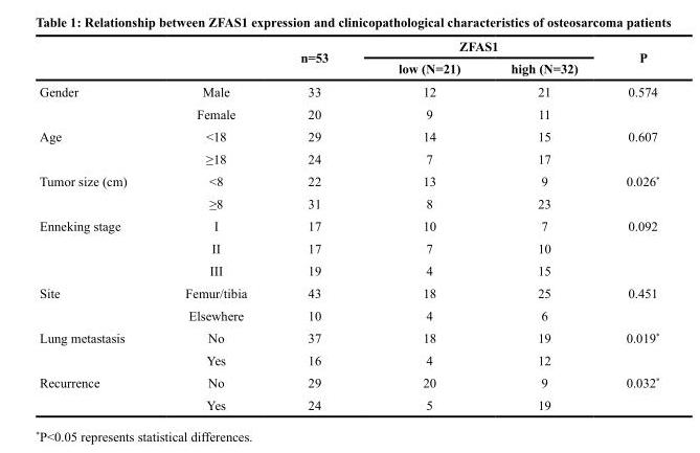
<table><thead><tr><td rowspan="2"></td><td rowspan="2"></td><td rowspan="2">n=53</td><td colspan="2">ZFAS1</td><td rowspan="2">P</td></tr><tr><td>low (N=21)</td><td>high (N=32)</td></tr></thead><tbody><tr><td rowspan="2">Gender</td><td>Male</td><td>33</td><td>12</td><td>21</td><td>0.574</td></tr><tr><td>Female</td><td>20</td><td>9</td><td>11</td><td></td></tr><tr><td rowspan="2">Age</td><td>&lt;18</td><td>29</td><td>14</td><td>15</td><td>0.607</td></tr><tr><td>≥18</td><td>24</td><td>7</td><td>17</td><td></td></tr><tr><td rowspan="2">Tumor size (cm)</td><td>&lt;8</td><td>22</td><td>13</td><td>9</td><td>0.026*</td></tr><tr><td>≥8</td><td>31</td><td>8</td><td>23</td><td></td></tr><tr><td rowspan="3">Enneking stage</td><td>I</td><td>17</td><td>10</td><td>7</td><td>0.092</td></tr><tr><td>II</td><td>17</td><td>7</td><td>10</td><td></td></tr><tr><td>III</td><td>19</td><td>4</td><td>15</td><td></td></tr><tr><td rowspan="2">Site</td><td>Femur/tibia</td><td>43</td><td>18</td><td>25</td><td>0.451</td></tr><tr><td>Elsewhere</td><td>10</td><td>4</td><td>6</td><td></td></tr><tr><td rowspan="2">Lung metastasis</td><td>No</td><td>37</td><td>18</td><td>19</td><td>0.019*</td></tr><tr><td>Yes</td><td>16</td><td>4</td><td>12</td><td></td></tr><tr><td rowspan="2">Recurrence</td><td>No</td><td>29</td><td>20</td><td>9</td><td>0.032*</td></tr><tr><td>Yes</td><td>24</td><td>5</td><td>19</td><td></td></tr></tbody></table>